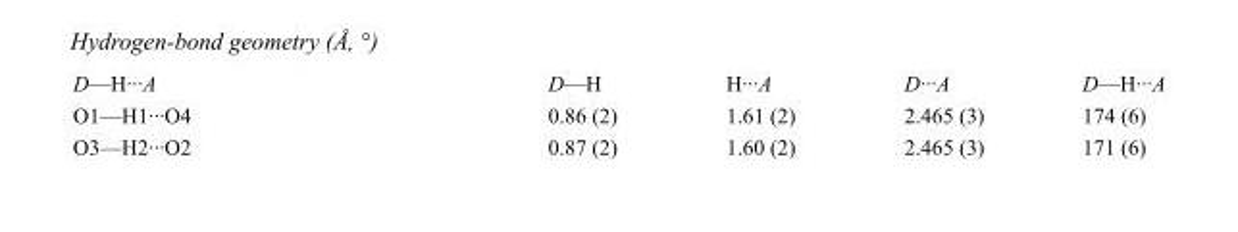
<table><tbody><tr><td>D—H···A</td><td>D—H</td><td>H···A</td><td>D···A</td><td>D—H···A</td></tr><tr><td>O1—H1···O4</td><td>0.86 (2)</td><td>1.61 (2)</td><td>2.465 (3)</td><td>174 (6)</td></tr><tr><td>O3—H2···O2</td><td>0.87 (2)</td><td>1.60 (2)</td><td>2.465 (3)</td><td>171 (6)</td></tr></tbody></table>